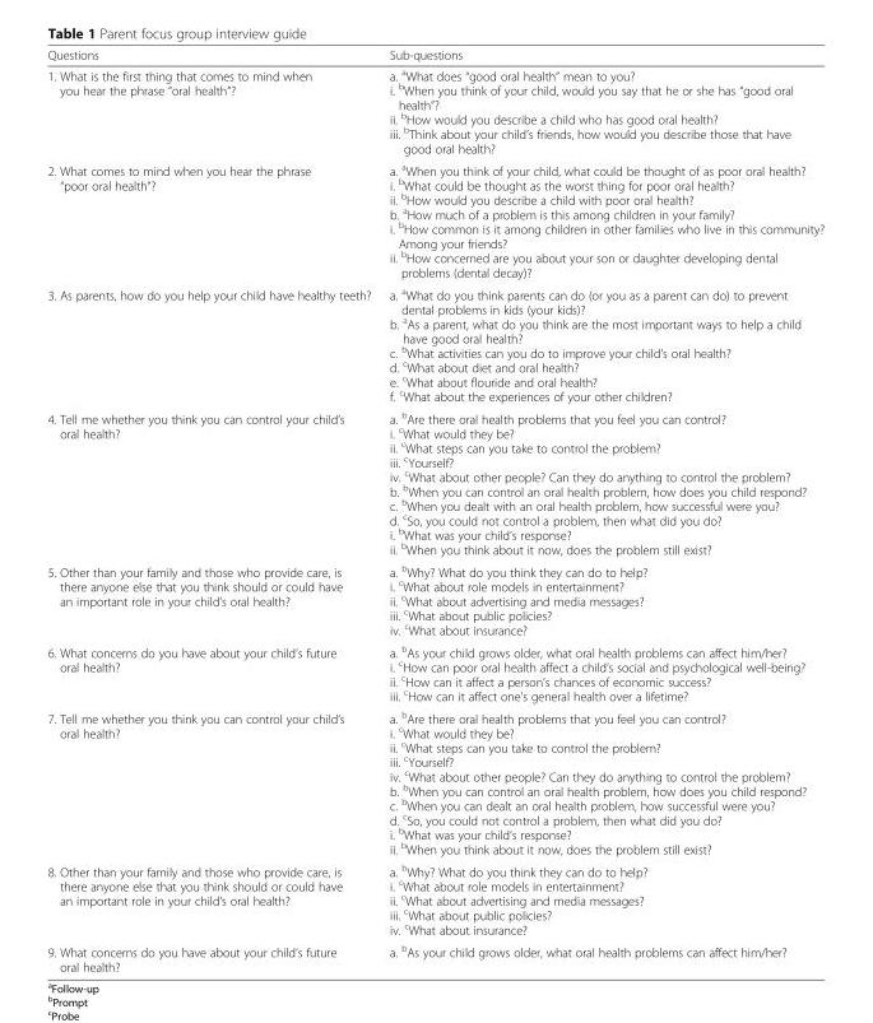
<table><thead><tr><td>Questions</td><td>Sub-questions</td></tr></thead><tbody><tr><td>1. What is the first thing that comes to mind when you hear the phrase “oral health”?</td><td>a. <sup>a</sup>What does “good oral health” mean to you? i. <sup>b</sup>When you think of your child, would you say that he or she has “good oral health”? ii. <sup>b</sup>How would you describe a child who has good oral health? iii. <sup>b</sup>Think about your child’s friends, how would you describe those that have good oral health?</td></tr><tr><td>2. What comes to mind when you hear the phrase “poor oral health”?</td><td>a. <sup>a</sup>When you think of your child, what could be thought of as poor oral health? i. <sup>b</sup>What could be thought as the worst thing for poor oral health? ii. <sup>b</sup>How would you describe a child with poor oral health? b. <sup>a</sup>How much of a problem is this among children in your family? i. <sup>b</sup>How common is it among children in other families who live in this community? Among your friends? ii. <sup>b</sup>How concerned are you about your son or daughter developing dental problems (dental decay)?</td></tr><tr><td>3. As parents, how do you help your child have healthy teeth?</td><td>a. <sup>a</sup>What do you think parents can do (or you as a parent can do) to prevent dental problems in kids (your kids)? b. <sup>a</sup>As a parent, what do you think are the most important ways to help a child have good oral health? c. <sup>b</sup>What activities can you do to improve your child’s oral health? d. <sup>c</sup>What about diet and oral health? e. <sup>c</sup>What about flouride and oral health? f. <sup>c</sup>What about the experiences of your other children?</td></tr><tr><td>4. Tell me whether you think you can control your child’s oral health?</td><td>a. <sup>b</sup>Are there oral health problems that you feel you can control? i. <sup>c</sup>What would they be? ii. <sup>c</sup>What steps can you take to control the problem? iii. <sup>c</sup>Yourself? iv. <sup>c</sup>What about other people? Can they do anything to control the problem? b. <sup>b</sup>When you can control an oral health problem, how does you child respond? c. <sup>b</sup>When you dealt with an oral health problem, how successful were you? d. <sup>c</sup>So, you could not control a problem, then what did you do? i. <sup>b</sup>What was your child’s response? ii. <sup>b</sup>When you think about it now, does the problem still exist?</td></tr><tr><td>5. Other than your family and those who provide care, is there anyone else that you think should or could have an important role in your child’s oral health?</td><td>a. <sup>b</sup>Why? What do you think they can do to help? i. <sup>c</sup>What about role models in entertainment? ii. <sup>c</sup>What about advertising and media messages? iii. <sup>c</sup>What about public policies? iv. <sup>c</sup>What about insurance?</td></tr><tr><td>6. What concerns do you have about your child’s future oral health?</td><td>a. <sup>b</sup>As your child grows older, what oral health problems can affect him/her? i. <sup>c</sup>How can poor oral health affect a child’s social and psychological well-being? ii. <sup>c</sup>How can it affect a person’s chances of economic success? iii. <sup>c</sup>How can it affect one’s general health over a lifetime?</td></tr><tr><td>7. Tell me whether you think you can control your child’s oral health?</td><td>a. <sup>b</sup>Are there oral health problems that you feel you can control? i. <sup>c</sup>What would they be? ii. <sup>c</sup>What steps can you take to control the problem? iii. <sup>c</sup>Yourself? iv. <sup>c</sup>What about other people? Can they do anything to control the problem? b. <sup>b</sup>When you can control an oral health problem, how does you child respond? c. <sup>b</sup>When you can dealt an oral health problem, how successful were you? d. <sup>c</sup>So, you could not control a problem, then what did you do? i. <sup>b</sup>What was your child’s response? ii. <sup>b</sup>When you think about it now, does the problem still exist?</td></tr><tr><td>8. Other than your family and those who provide care, is there anyone else that you think should or could have an important role in your child’s oral health?</td><td>a. <sup>b</sup>Why? What do you think they can do to help? i. <sup>c</sup>What about role models in entertainment? ii. <sup>c</sup>What about advertising and media messages? iii. <sup>c</sup>What about public policies? iv. <sup>c</sup>What about insurance?</td></tr><tr><td>9. What concerns do you have about your child’s future oral health?</td><td>a. <sup>b</sup>As your child grows older, what oral health problems can affect him/her?</td></tr></tbody></table>